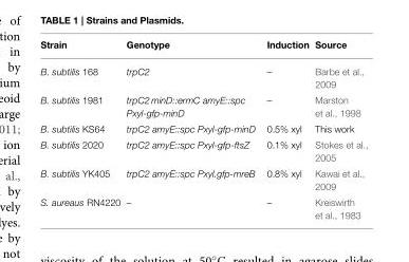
<table><thead><tr><td>Strain</td><td>Genotype</td><td>Induction</td><td>Source</td></tr></thead><tbody><tr><td>B. subtilis 168</td><td>trpC2</td><td>–</td><td>Barbe et al., 2009</td></tr><tr><td>B. subtilis 1981</td><td>trpC2 minD::ermC amyE::spc Pxyl-gfp-minD</td><td>–</td><td>Marston et al., 1998</td></tr><tr><td>B. subtilis KS64</td><td>trpC2 amyE::spc Pxyl-gfp-minD</td><td>0.5% xyl</td><td>This work</td></tr><tr><td>B. subtilis 2020</td><td>trpC2 amyE::spc Pxyl-gfp-ftsZ</td><td>0.1% xyl</td><td>Stokes et al., 2005</td></tr><tr><td>B. subtilis YK405</td><td>trpC2 amyE::spc Pxyl.gfp-mreB</td><td>0.8% xyl</td><td>Kawai et al., 2009</td></tr><tr><td>S. aureaus RN4220</td><td>–</td><td>–</td><td>Kreiswirth et al., 1983</td></tr></tbody></table>